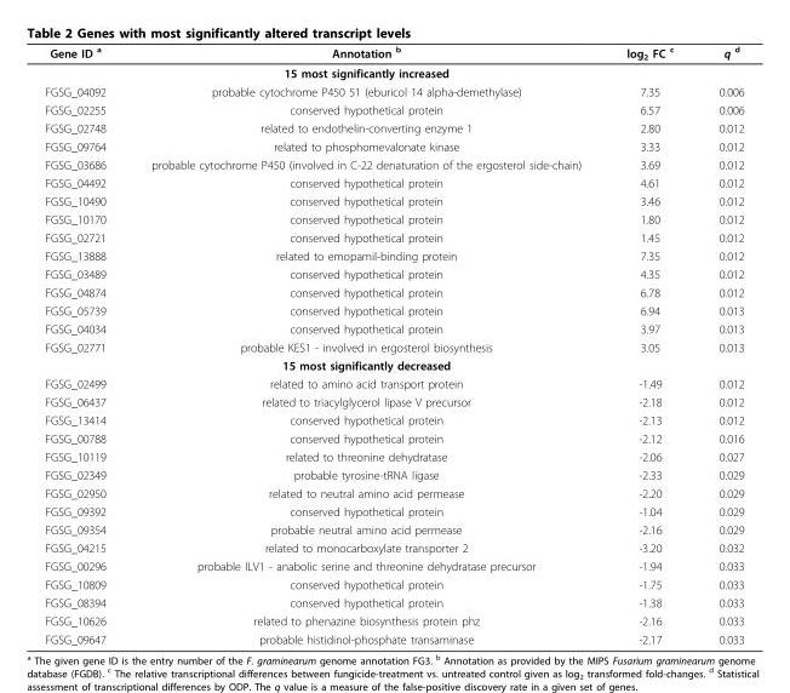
<table><thead><tr><td>Gene ID <sup>a</sup></td><td>Annotation <sup>b</sup></td><td>log<sub>2</sub> FC <sup>c</sup></td><td>q <sup>d</sup></td></tr></thead><tbody><tr><td></td><td>15 most significantly increased</td><td></td><td></td></tr><tr><td>FGSG_04092</td><td>probable cytochrome P450 51 (eburicol 14 alpha-demethylase)</td><td>7.35</td><td>0.006</td></tr><tr><td>FGSG_02255</td><td>conserved hypothetical protein</td><td>6.57</td><td>0.006</td></tr><tr><td>FGSG_02748</td><td>related to endothelin-converting enzyme 1</td><td>2.80</td><td>0.012</td></tr><tr><td>FGSG_09764</td><td>related to phosphomevalonate kinase</td><td>3.33</td><td>0.012</td></tr><tr><td>FGSG_03686</td><td>probable cytochrome P450 (involved in C-22 denaturation of the ergosterol side-chain)</td><td>3.69</td><td>0.012</td></tr><tr><td>FGSG_04492</td><td>conserved hypothetical protein</td><td>4.61</td><td>0.012</td></tr><tr><td>FGSG_10490</td><td>conserved hypothetical protein</td><td>3.46</td><td>0.012</td></tr><tr><td>FGSG_10170</td><td>conserved hypothetical protein</td><td>1.80</td><td>0.012</td></tr><tr><td>FGSG_02721</td><td>conserved hypothetical protein</td><td>1.45</td><td>0.012</td></tr><tr><td>FGSG_13888</td><td>related to emopamil-binding protein</td><td>7.35</td><td>0.012</td></tr><tr><td>FGSG_03489</td><td>conserved hypothetical protein</td><td>4.35</td><td>0.012</td></tr><tr><td>FGSG_04874</td><td>conserved hypothetical protein</td><td>6.78</td><td>0.012</td></tr><tr><td>FGSG_05739</td><td>conserved hypothetical protein</td><td>6.94</td><td>0.013</td></tr><tr><td>FGSG_04034</td><td>conserved hypothetical protein</td><td>3.97</td><td>0.013</td></tr><tr><td rowspan="2">FGSG_02771</td><td>probable KES1 - involved in ergosterol biosynthesis</td><td>3.05</td><td>0.013</td></tr><tr><td>15 most significantly decreased</td><td></td><td></td></tr><tr><td>FGSG_02499</td><td>related to amino acid transport protein</td><td>-1.49</td><td>0.012</td></tr><tr><td>FGSG_06437</td><td>related to triacylglycerol lipase V precursor</td><td>-2.18</td><td>0.012</td></tr><tr><td>FGSG_13414</td><td>conserved hypothetical protein</td><td>-2.13</td><td>0.012</td></tr><tr><td>FGSG_00788</td><td>conserved hypothetical protein</td><td>-2.12</td><td>0.016</td></tr><tr><td>FGSG_10119</td><td>related to threonine dehydratase</td><td>-2.06</td><td>0.027</td></tr><tr><td>FGSG_02349</td><td>probable tyrosine-tRNA ligase</td><td>-2.33</td><td>0.029</td></tr><tr><td>FGSG_02950</td><td>related to neutral amino acid permease</td><td>-2.20</td><td>0.029</td></tr><tr><td>FGSG_09392</td><td>conserved hypothetical protein</td><td>-1.04</td><td>0.029</td></tr><tr><td>FGSG_09354</td><td>probable neutral amino acid permease</td><td>-2.16</td><td>0.029</td></tr><tr><td>FGSG_04215</td><td>related to monocarboxylate transporter 2</td><td>-3.20</td><td>0.032</td></tr><tr><td>FGSG_00296</td><td>probable ILV1 - anabolic serine and threonine dehydratase precursor</td><td>-1.94</td><td>0.033</td></tr><tr><td>FGSG_10809</td><td>conserved hypothetical protein</td><td>-1.75</td><td>0.033</td></tr><tr><td>FGSG_08394</td><td>conserved hypothetical protein</td><td>-1.38</td><td>0.033</td></tr><tr><td>FGSG_10626</td><td>related to phenazine biosynthesis protein phz</td><td>-2.16</td><td>0.033</td></tr><tr><td>FGSG_09647</td><td>probable histidinol-phosphate transaminase</td><td>-2.17</td><td>0.033</td></tr></tbody></table>